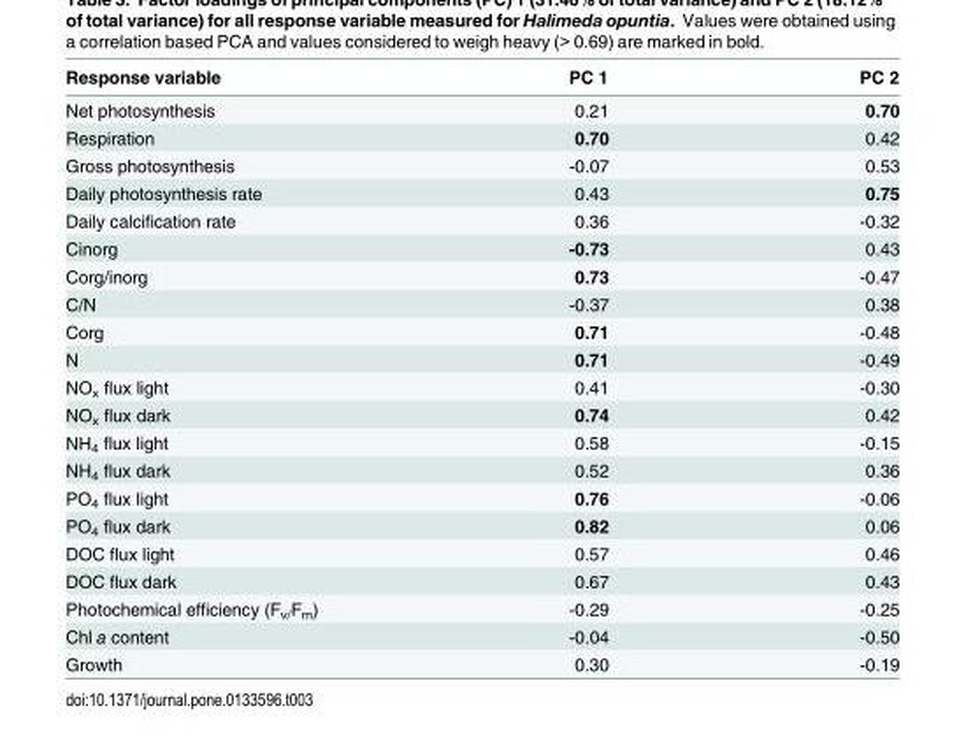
<table><thead><tr><td>Response variable</td><td>PC 1</td><td>PC 2</td></tr></thead><tbody><tr><td>Net photosynthesis</td><td>0.21</td><td>0.70</td></tr><tr><td>Respiration</td><td>0.70</td><td>0.42</td></tr><tr><td>Gross photosynthesis</td><td>-0.07</td><td>0.53</td></tr><tr><td>Daily photosynthesis rate</td><td>0.43</td><td>0.75</td></tr><tr><td>Daily calcification rate</td><td>0.36</td><td>-0.32</td></tr><tr><td>Cinorg</td><td>-0.73</td><td>0.43</td></tr><tr><td>Corg/inorg</td><td>0.73</td><td>-0.47</td></tr><tr><td>C/N</td><td>-0.37</td><td>0.38</td></tr><tr><td>Corg</td><td>0.71</td><td>-0.48</td></tr><tr><td>N</td><td>0.71</td><td>-0.49</td></tr><tr><td>NO<sub>x</sub> flux light</td><td>0.41</td><td>-0.30</td></tr><tr><td>NO<sub>x</sub> flux dark</td><td>0.74</td><td>0.42</td></tr><tr><td>NH<sub>4</sub> flux light</td><td>0.58</td><td>-0.15</td></tr><tr><td>NH<sub>4</sub> flux dark</td><td>0.52</td><td>0.36</td></tr><tr><td>PO<sub>4</sub> flux light</td><td>0.76</td><td>-0.06</td></tr><tr><td>PO<sub>4</sub> flux dark</td><td>0.82</td><td>0.06</td></tr><tr><td>DOC flux light</td><td>0.57</td><td>0.46</td></tr><tr><td>DOC flux dark</td><td>0.67</td><td>0.43</td></tr><tr><td>Photochemical efficiency (F<sub>v/</sub>F<sub>m</sub>)</td><td>-0.29</td><td>-0.25</td></tr><tr><td>Chl a content</td><td>-0.04</td><td>-0.50</td></tr><tr><td>Growth</td><td>0.30</td><td>-0.19</td></tr></tbody></table>